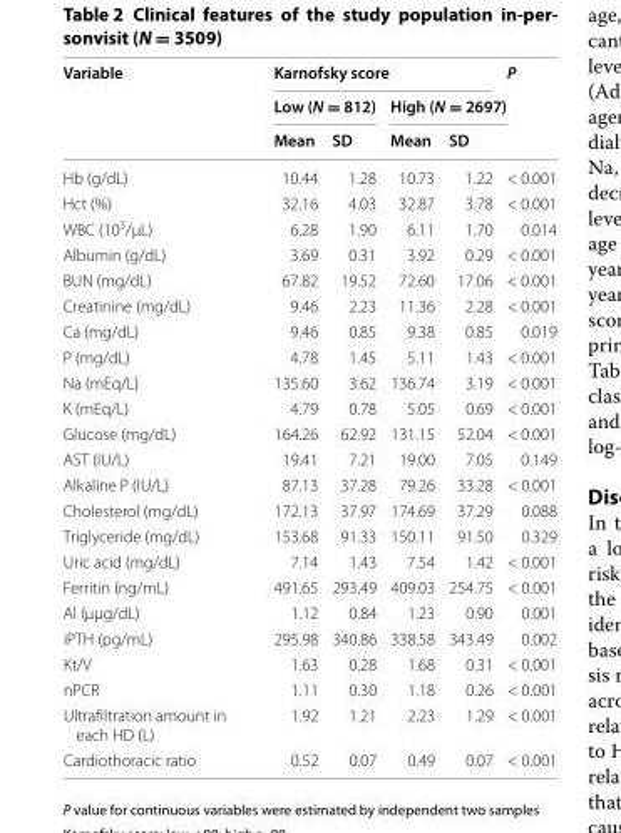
<table><thead><tr><td rowspan="3">Variable</td><td colspan="4">Karnofsky score</td><td rowspan="3">P</td></tr><tr><td colspan="2">Low (N = 812)</td><td colspan="2">High (N = 2697)</td></tr><tr><td>Mean</td><td>SD</td><td>Mean</td><td>SD</td></tr></thead><tbody><tr><td>Hb (g/dL)</td><td>10.44</td><td>1.28</td><td>10.73</td><td>1.22</td><td>&lt; 0.001</td></tr><tr><td>Hct (%)</td><td>32.16</td><td>4.03</td><td>32.87</td><td>3.78</td><td>&lt; 0.001</td></tr><tr><td>WBC (10<sup>3</sup>/μL)</td><td>6.28</td><td>1.90</td><td>6.11</td><td>1.70</td><td>0.014</td></tr><tr><td>Albumin (g/dL)</td><td>3.69</td><td>0.31</td><td>3.92</td><td>0.29</td><td>&lt; 0.001</td></tr><tr><td>BUN (mg/dL)</td><td>67.82</td><td>19.52</td><td>72.60</td><td>17.06</td><td>&lt; 0.001</td></tr><tr><td>Creatinine (mg/dL)</td><td>9.46</td><td>2.23</td><td>11.36</td><td>2.28</td><td>&lt; 0.001</td></tr><tr><td>Ca (mg/dL)</td><td>9.46</td><td>0.85</td><td>9.38</td><td>0.85</td><td>0.019</td></tr><tr><td>P (mg/dL)</td><td>4.78</td><td>1.45</td><td>5.11</td><td>1.43</td><td>&lt; 0.001</td></tr><tr><td>Na (mEq/L)</td><td>135.60</td><td>3.62</td><td>136.74</td><td>3.19</td><td>&lt; 0.001</td></tr><tr><td>K (mEq/L)</td><td>4.79</td><td>0.78</td><td>5.05</td><td>0.69</td><td>&lt; 0.001</td></tr><tr><td>Glucose (mg/dL)</td><td>164.26</td><td>62.92</td><td>131.15</td><td>52.04</td><td>&lt; 0.001</td></tr><tr><td>AST (IU/L)</td><td>19.41</td><td>7.21</td><td>19.00</td><td>7.05</td><td>0.149</td></tr><tr><td>Alkaline P (IU/L)</td><td>87.13</td><td>37.28</td><td>79.26</td><td>33.28</td><td>&lt; 0.001</td></tr><tr><td>Cholesterol (mg/dL)</td><td>172.13</td><td>37.97</td><td>174.69</td><td>37.29</td><td>0.088</td></tr><tr><td>Triglyceride (mg/dL)</td><td>153.68</td><td>91.33</td><td>150.11</td><td>91.50</td><td>0.329</td></tr><tr><td>Uric acid (mg/dL)</td><td>7.14</td><td>1.43</td><td>7.54</td><td>1.42</td><td>&lt; 0.001</td></tr><tr><td>Ferritin (ng/mL)</td><td>491.65</td><td>293.49</td><td>409.03</td><td>254.75</td><td>&lt; 0.001</td></tr><tr><td>Al (μμg/dL)</td><td>1.12</td><td>0.84</td><td>1.23</td><td>0.90</td><td>0.001</td></tr><tr><td>iPTH (pg/mL)</td><td>295.98</td><td>340.86</td><td>338.58</td><td>343.49</td><td>0.002</td></tr><tr><td>Kt/V</td><td>1.63</td><td>0.28</td><td>1.68</td><td>0.31</td><td>&lt; 0.001</td></tr><tr><td>nPCR</td><td>1.11</td><td>0.30</td><td>1.18</td><td>0.26</td><td>&lt; 0.001</td></tr><tr><td>Ultrafiltration amount in each HD (L)</td><td>1.92</td><td>1.21</td><td>2.23</td><td>1.29</td><td>&lt; 0.001</td></tr><tr><td>Cardiothoracic ratio</td><td>0.52</td><td>0.07</td><td>0.49</td><td>0.07</td><td>&lt; 0.001</td></tr></tbody></table>